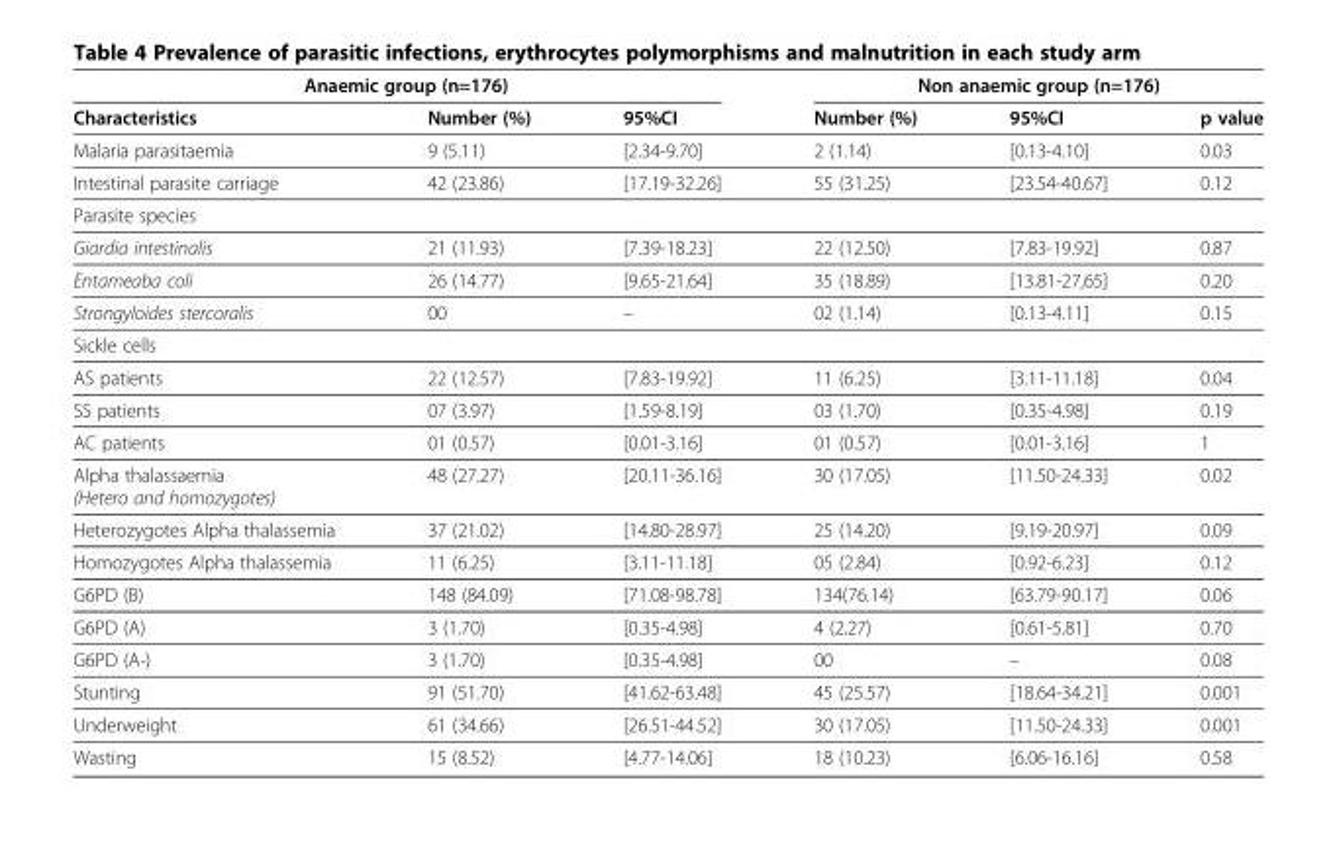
<table><thead><tr><td colspan="3">Anaemic group (n=176)</td><td colspan="3">Non anaemic group (n=176)</td></tr><tr><td>Characteristics</td><td>Number (%)</td><td>95%CI</td><td>Number (%)</td><td>95%CI</td><td>p value</td></tr></thead><tbody><tr><td>Malaria parasitaemia</td><td>9 (5.11)</td><td>[2.34-9.70]</td><td>2 (1.14)</td><td>[0.13-4.10]</td><td>0.03</td></tr><tr><td>Intestinal parasite carriage</td><td>42 (23.86)</td><td>[17.19-32.26]</td><td>55 (31.25)</td><td>[23.54-40.67]</td><td>0.12</td></tr><tr><td colspan="6">Parasite species</td></tr><tr><td>Giardia intestinalis</td><td>21 (11.93)</td><td>[7.39-18.23]</td><td>22 (12.50)</td><td>[7.83-19.92]</td><td>0.87</td></tr><tr><td>Entameaba coli</td><td>26 (14.77)</td><td>[9.65-21.64]</td><td>35 (18.89)</td><td>[13.81-27,65]</td><td>0.20</td></tr><tr><td>Strongyloides stercoralis</td><td>00</td><td>–</td><td>02 (1.14)</td><td>[0.13-4.11]</td><td>0.15</td></tr><tr><td colspan="6">Sickle cells</td></tr><tr><td>AS patients</td><td>22 (12.57)</td><td>[7.83-19.92]</td><td>11 (6.25)</td><td>[3.11-11.18]</td><td>0.04</td></tr><tr><td>SS patients</td><td>07 (3.97)</td><td>[1.59-8.19]</td><td>03 (1.70)</td><td>[0.35-4.98]</td><td>0.19</td></tr><tr><td>AC patients</td><td>01 (0.57)</td><td>[0.01-3.16]</td><td>01 (0.57)</td><td>[0.01-3.16]</td><td>1</td></tr><tr><td>Alpha thalassaemia (Hetero and homozygotes)</td><td>48 (27.27)</td><td>[20.11-36.16]</td><td>30 (17.05)</td><td>[11.50-24.33]</td><td>0.02</td></tr><tr><td>Heterozygotes Alpha thalassemia</td><td>37 (21.02)</td><td>[14.80-28.97]</td><td>25 (14.20)</td><td>[9.19-20.97]</td><td>0.09</td></tr><tr><td>Homozygotes Alpha thalassemia</td><td>11 (6.25)</td><td>[3.11-11.18]</td><td>05 (2.84)</td><td>[0.92-6.23]</td><td>0.12</td></tr><tr><td>G6PD (B)</td><td>148 (84.09)</td><td>[71.08-98.78]</td><td>134(76.14)</td><td>[63.79-90.17]</td><td>0.06</td></tr><tr><td>G6PD (A)</td><td>3 (1.70)</td><td>[0.35-4.98]</td><td>4 (2.27)</td><td>[0.61-5.81]</td><td>0.70</td></tr><tr><td>G6PD (A-)</td><td>3 (1.70)</td><td>[0.35-4.98]</td><td>00</td><td>–</td><td>0.08</td></tr><tr><td>Stunting</td><td>91 (51.70)</td><td>[41.62-63.48]</td><td>45 (25.57)</td><td>[18.64-34.21]</td><td>0.001</td></tr><tr><td>Underweight</td><td>61 (34.66)</td><td>[26.51-44.52]</td><td>30 (17.05)</td><td>[11.50-24.33]</td><td>0.001</td></tr><tr><td>Wasting</td><td>15 (8.52)</td><td>[4.77-14.06]</td><td>18 (10.23)</td><td>[6.06-16.16]</td><td>0.58</td></tr></tbody></table>